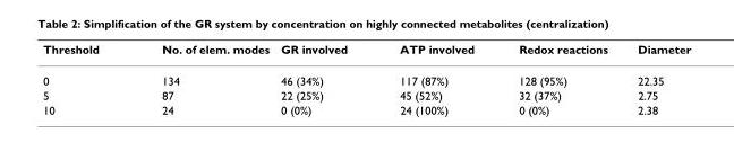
<table><thead><tr><td>Threshold</td><td>No. of elem. modes</td><td>GR involved</td><td>ATP involved</td><td>Redox reactions</td><td>Diameter</td></tr></thead><tbody><tr><td>0</td><td>134</td><td>46 (34%)</td><td>117 (87%)</td><td>128 (95%)</td><td>22.35</td></tr><tr><td>5</td><td>87</td><td>22 (25%)</td><td>45 (52%)</td><td>32 (37%)</td><td>2.75</td></tr><tr><td>10</td><td>24</td><td>0 (0%)</td><td>24 (100%)</td><td>0 (0%)</td><td>2.38</td></tr></tbody></table>